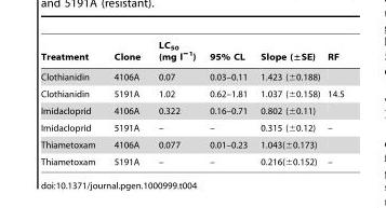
<table><thead><tr><td>Treatment</td><td>Clone</td><td>LC<sub>50</sub> (mg l<sup>−1</sup>)</td><td>95% CL</td><td>Slope (±SE)</td><td>RF</td></tr></thead><tbody><tr><td>Clothianidin</td><td>4106A</td><td>0.07</td><td>0.03–0.11</td><td>1.423 (±0.188)</td><td></td></tr><tr><td>Clothianidin</td><td>5191A</td><td>1.02</td><td>0.62–1.81</td><td>1.037 (±0.158)</td><td>14.5</td></tr><tr><td>Imidacloprid</td><td>4106A</td><td>0.322</td><td>0.16–0.71</td><td>0.802 (±0.11)</td><td></td></tr><tr><td>Imidacloprid</td><td>5191A</td><td>–</td><td>–</td><td>0.315 (±0.12)</td><td>–</td></tr><tr><td>Thiametoxam</td><td>4106A</td><td>0.077</td><td>0.01–0.23</td><td>1.043(±0.173)</td><td></td></tr><tr><td>Thiametoxam</td><td>5191A</td><td>–</td><td>–</td><td>0.216(±0.152)</td><td>–</td></tr></tbody></table>